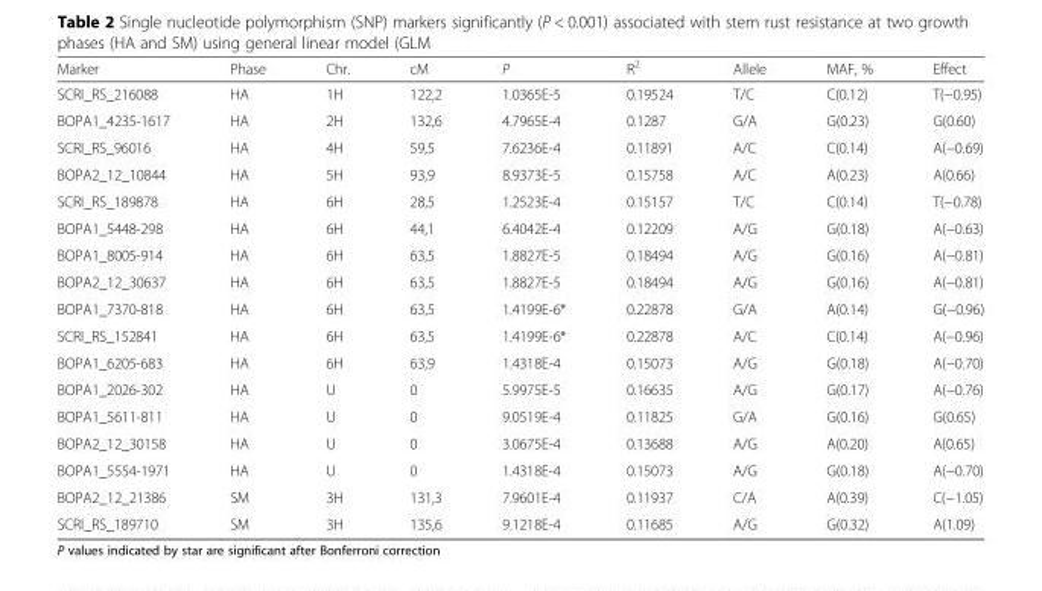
<table><thead><tr><td>Marker</td><td>Phase</td><td>Chr.</td><td>cM</td><td>P</td><td>R<sup>2</sup></td><td>Allele</td><td>MAF, %</td><td>Effect</td></tr></thead><tbody><tr><td>SCRI_RS_216088</td><td>HA</td><td>1H</td><td>122,2</td><td>1.0365E-5</td><td>0.19524</td><td>T/C</td><td>C(0.12)</td><td>T(−0.95)</td></tr><tr><td>BOPA1_4235-1617</td><td>HA</td><td>2H</td><td>132,6</td><td>4.7965E-4</td><td>0.1287</td><td>G/A</td><td>G(0.23)</td><td>G(0.60)</td></tr><tr><td>SCRI_RS_96016</td><td>HA</td><td>4H</td><td>59,5</td><td>7.6236E-4</td><td>0.11891</td><td>A/C</td><td>C(0.14)</td><td>A(−0.69)</td></tr><tr><td>BOPA2_12_10844</td><td>HA</td><td>5H</td><td>93,9</td><td>8.9373E-5</td><td>0.15758</td><td>A/C</td><td>A(0.23)</td><td>A(0.66)</td></tr><tr><td>SCRI_RS_189878</td><td>HA</td><td>6H</td><td>28,5</td><td>1.2523E-4</td><td>0.15157</td><td>T/C</td><td>C(0.14)</td><td>T(−0.78)</td></tr><tr><td>BOPA1_5448-298</td><td>HA</td><td>6H</td><td>44,1</td><td>6.4042E-4</td><td>0.12209</td><td>A/G</td><td>G(0.18)</td><td>A(−0.63)</td></tr><tr><td>BOPA1_8005-914</td><td>HA</td><td>6H</td><td>63,5</td><td>1.8827E-5</td><td>0.18494</td><td>A/G</td><td>G(0.16)</td><td>A(−0.81)</td></tr><tr><td>BOPA2_12_30637</td><td>HA</td><td>6H</td><td>63,5</td><td>1.8827E-5</td><td>0.18494</td><td>A/G</td><td>G(0.16)</td><td>A(−0.81)</td></tr><tr><td>BOPA1_7370-818</td><td>HA</td><td>6H</td><td>63,5</td><td>1.4199E-6*</td><td>0.22878</td><td>G/A</td><td>A(0.14)</td><td>G(−0.96)</td></tr><tr><td>SCRI_RS_152841</td><td>HA</td><td>6H</td><td>63,5</td><td>1.4199E-6*</td><td>0.22878</td><td>A/C</td><td>C(0.14)</td><td>A(−0.96)</td></tr><tr><td>BOPA1_6205-683</td><td>HA</td><td>6H</td><td>63,9</td><td>1.4318E-4</td><td>0.15073</td><td>A/G</td><td>G(0.18)</td><td>A(−0.70)</td></tr><tr><td>BOPA1_2026-302</td><td>HA</td><td>U</td><td>0</td><td>5.9975E-5</td><td>0.16635</td><td>A/G</td><td>G(0.17)</td><td>A(−0.76)</td></tr><tr><td>BOPA1_5611-811</td><td>HA</td><td>U</td><td>0</td><td>9.0519E-4</td><td>0.11825</td><td>G/A</td><td>G(0.16)</td><td>G(0.65)</td></tr><tr><td>BOPA2_12_30158</td><td>HA</td><td>U</td><td>0</td><td>3.0675E-4</td><td>0.13688</td><td>A/G</td><td>A(0.20)</td><td>A(0.65)</td></tr><tr><td>BOPA1_5554-1971</td><td>HA</td><td>U</td><td>0</td><td>1.4318E-4</td><td>0.15073</td><td>A/G</td><td>G(0.18)</td><td>A(−0.70)</td></tr><tr><td>BOPA2_12_21386</td><td>SM</td><td>3H</td><td>131,3</td><td>7.9601E-4</td><td>0.11937</td><td>C/A</td><td>A(0.39)</td><td>C(−1.05)</td></tr><tr><td>SCRI_RS_189710</td><td>SM</td><td>3H</td><td>135,6</td><td>9.1218E-4</td><td>0.11685</td><td>A/G</td><td>G(0.32)</td><td>A(1.09)</td></tr></tbody></table>